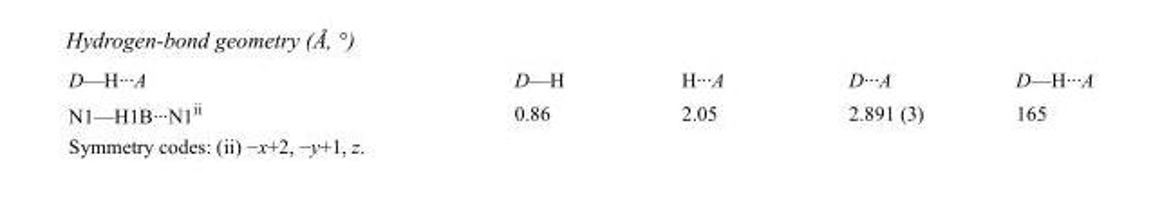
<table><tbody><tr><td>D—H···A</td><td>D—H</td><td>H···A</td><td>D···A</td><td>D—H···A</td></tr><tr><td>N1—H1B···N1<sup>ii</sup></td><td>0.86</td><td>2.05</td><td>2.891 (3)</td><td>165</td></tr></tbody></table>